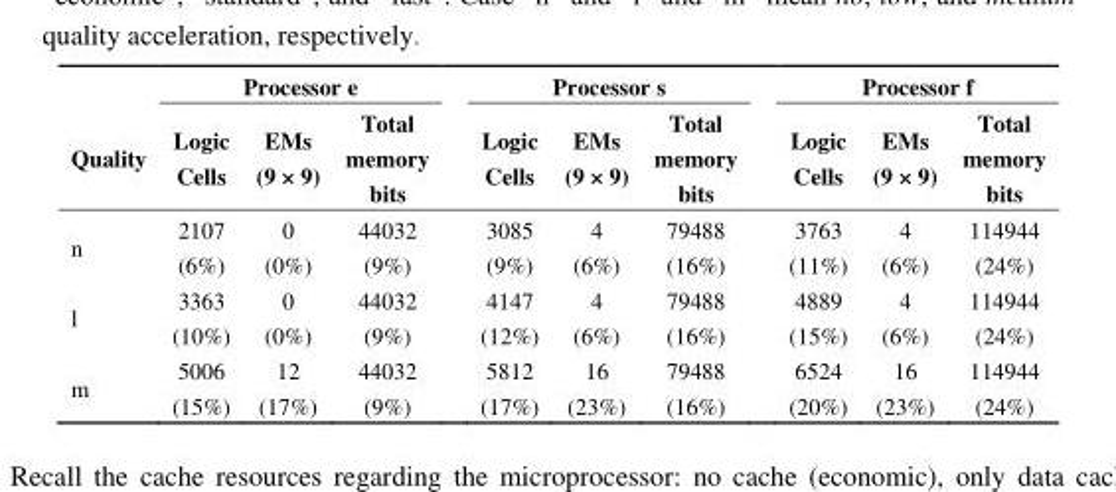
<table><thead><tr><td rowspan="2">Quality</td><td colspan="3">Processor e</td><td colspan="3">Processor s</td><td colspan="3">Processor f</td></tr><tr><td>Logic Cells</td><td>EMs (9 × 9)</td><td>Total memory bits</td><td>Logic Cells</td><td>EMs (9 × 9)</td><td>Total memory bits</td><td>Logic Cells</td><td>EMs (9 × 9)</td><td>Total memory bits</td></tr></thead><tbody><tr><td>n</td><td>2107 (6%)</td><td>0 (0%)</td><td>44032 (9%)</td><td>3085 (9%)</td><td>4 (6%)</td><td>79488 (16%)</td><td>3763 (11%)</td><td>4 (6%)</td><td>114944 (24%)</td></tr><tr><td>l</td><td>3363 (10%)</td><td>0 (0%)</td><td>44032 (9%)</td><td>4147 (12%)</td><td>4 (6%)</td><td>79488 (16%)</td><td>4889 (15%)</td><td>4 (6%)</td><td>114944 (24%)</td></tr><tr><td>m</td><td>5006 (15%)</td><td>12 (17%)</td><td>44032 (9%)</td><td>5812 (17%)</td><td>16 (23%)</td><td>79488 (16%)</td><td>6524 (20%)</td><td>16 (23%)</td><td>114944 (24%)</td></tr></tbody></table>